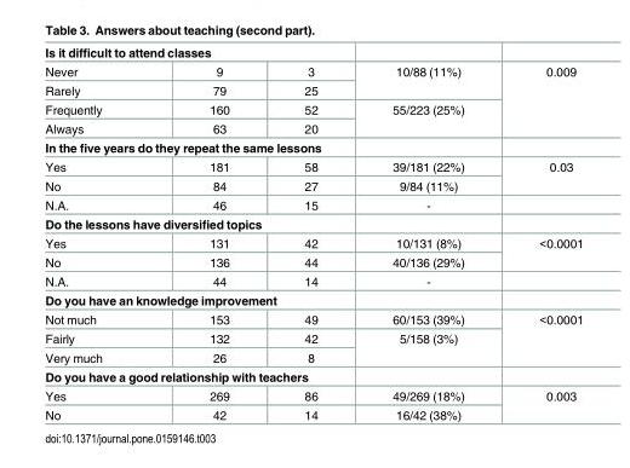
<table><tbody><tr><td colspan="5">Is it difficult to attend classes</td></tr><tr><td>Never</td><td>9</td><td>3</td><td rowspan="2">10/88 (11%)</td><td rowspan="4">0.009</td></tr><tr><td>Rarely</td><td>79</td><td>25</td></tr><tr><td>Frequently</td><td>160</td><td>52</td><td rowspan="2">55/223 (25%)</td></tr><tr><td>Always</td><td>63</td><td>20</td></tr><tr><td colspan="5">In the five years do they repeat the same lessons</td></tr><tr><td>Yes</td><td>181</td><td>58</td><td>39/181 (22%)</td><td rowspan="2">0.03</td></tr><tr><td>No</td><td>84</td><td>27</td><td>9/84 (11%)</td></tr><tr><td>N.A.</td><td>46</td><td>15</td><td>-</td><td></td></tr><tr><td colspan="5">Do the lessons have diversified topics</td></tr><tr><td>Yes</td><td>131</td><td>42</td><td>10/131 (8%)</td><td rowspan="2">&lt;0.0001</td></tr><tr><td>No</td><td>136</td><td>44</td><td>40/136 (29%)</td></tr><tr><td>N.A.</td><td>44</td><td>14</td><td>-</td><td></td></tr><tr><td colspan="5">Do you have an knowledge improvement</td></tr><tr><td>Not much</td><td>153</td><td>49</td><td>60/153 (39%)</td><td rowspan="3">&lt;0.0001</td></tr><tr><td>Fairly</td><td>132</td><td>42</td><td rowspan="2">5/158 (3%)</td></tr><tr><td>Very much</td><td>26</td><td>8</td></tr><tr><td colspan="5">Do you have a good relationship with teachers</td></tr><tr><td>Yes</td><td>269</td><td>86</td><td>49/269 (18%)</td><td rowspan="2">0.003</td></tr><tr><td>No</td><td>42</td><td>14</td><td>16/42 (38%)</td></tr></tbody></table>